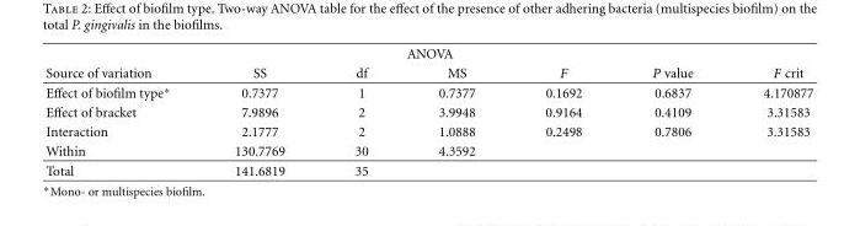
<table><thead><tr><td colspan="7">ANOVA</td></tr><tr><td>Source of variation</td><td>SS</td><td>df</td><td>MS</td><td>F</td><td>P value</td><td>F crit</td></tr></thead><tbody><tr><td>Effect of biofilm type∗</td><td>0.7377</td><td>1</td><td>0.7377</td><td>0.1692</td><td>0.6837</td><td>4.170877</td></tr><tr><td>Effect of bracket</td><td>7.9896</td><td>2</td><td>3.9948</td><td>0.9164</td><td>0.4109</td><td>3.31583</td></tr><tr><td>Interaction</td><td>2.1777</td><td>2</td><td>1.0888</td><td>0.2498</td><td>0.7806</td><td>3.31583</td></tr><tr><td>Within</td><td>130.7769</td><td>30</td><td>4.3592</td><td></td><td></td><td></td></tr><tr><td>Total</td><td>141.6819</td><td>35</td><td></td><td></td><td></td><td></td></tr></tbody></table>